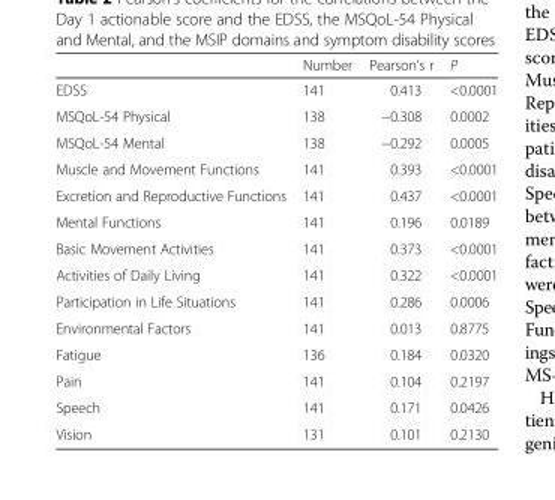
<table><thead><tr><td></td><td>Number</td><td>Pearson’s r</td><td>P</td></tr></thead><tbody><tr><td>EDSS</td><td>141</td><td>0.413</td><td>&lt;0.0001</td></tr><tr><td>MSQoL-54 Physical</td><td>138</td><td>−0.308</td><td>0.0002</td></tr><tr><td>MSQoL-54 Mental</td><td>138</td><td>−0.292</td><td>0.0005</td></tr><tr><td>Muscle and Movement Functions</td><td>141</td><td>0.393</td><td>&lt;0.0001</td></tr><tr><td>Excretion and Reproductive Functions</td><td>141</td><td>0.437</td><td>&lt;0.0001</td></tr><tr><td>Mental Functions</td><td>141</td><td>0.196</td><td>0.0189</td></tr><tr><td>Basic Movement Activities</td><td>141</td><td>0.373</td><td>&lt;0.0001</td></tr><tr><td>Activities of Daily Living</td><td>141</td><td>0.322</td><td>&lt;0.0001</td></tr><tr><td>Participation in Life Situations</td><td>141</td><td>0.286</td><td>0.0006</td></tr><tr><td>Environmental Factors</td><td>141</td><td>0.013</td><td>0.8775</td></tr><tr><td>Fatigue</td><td>136</td><td>0.184</td><td>0.0320</td></tr><tr><td>Pain</td><td>141</td><td>0.104</td><td>0.2197</td></tr><tr><td>Speech</td><td>141</td><td>0.171</td><td>0.0426</td></tr><tr><td>Vision</td><td>131</td><td>0.101</td><td>0.2130</td></tr></tbody></table>